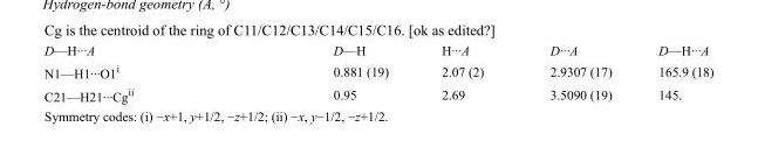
<table><tbody><tr><td>D—H···A</td><td>D—H</td><td>H···A</td><td>D···A</td><td>D—H···A</td></tr><tr><td>N1—H1···O1<sup>i</sup></td><td>0.881 (19)</td><td>2.07 (2)</td><td>2.9307 (17)</td><td>165.9 (18)</td></tr><tr><td>C21—H21···Cg<sup>ii</sup></td><td>0.95</td><td>2.69</td><td>3.5090 (19)</td><td>145.</td></tr></tbody></table>